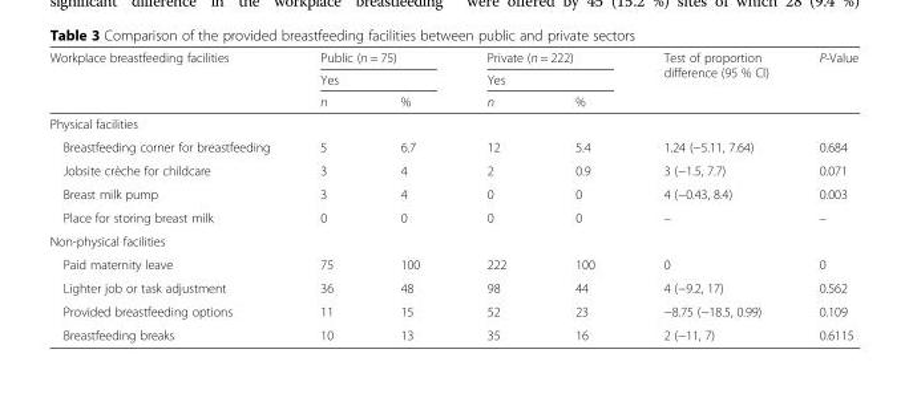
<table><thead><tr><td rowspan="3">Workplace breastfeeding facilities</td><td rowspan="2" colspan="2">Public (n = 75) Yes</td><td rowspan="2" colspan="2">Private (n = 222) Yes</td><td rowspan="3">Test of proportion difference (95 % Cl)</td><td rowspan="3">P-Value</td></tr><tr></tr><tr><td>n</td><td>%</td><td>n</td><td>%</td></tr></thead><tbody><tr><td colspan="7">Physical facilities</td></tr><tr><td>Breastfeeding corner for breastfeeding</td><td>5</td><td>6.7</td><td>12</td><td>5.4</td><td>1.24 (−5.11, 7.64)</td><td>0.684</td></tr><tr><td>Jobsite crèche for childcare</td><td>3</td><td>4</td><td>2</td><td>0.9</td><td>3 (−1.5, 7.7)</td><td>0.071</td></tr><tr><td>Breast milk pump</td><td>3</td><td>4</td><td>0</td><td>0</td><td>4 (−0.43, 8.4)</td><td>0.003</td></tr><tr><td>Place for storing breast milk</td><td>0</td><td>0</td><td>0</td><td>0</td><td>–</td><td>–</td></tr><tr><td colspan="7">Non-physical facilities</td></tr><tr><td>Paid maternity leave</td><td>75</td><td>100</td><td>222</td><td>100</td><td>0</td><td>0</td></tr><tr><td>Lighter job or task adjustment</td><td>36</td><td>48</td><td>98</td><td>44</td><td>4 (−9.2, 17)</td><td>0.562</td></tr><tr><td>Provided breastfeeding options</td><td>11</td><td>15</td><td>52</td><td>23</td><td>−8.75 (−18.5, 0.99)</td><td>0.109</td></tr><tr><td>Breastfeeding breaks</td><td>10</td><td>13</td><td>35</td><td>16</td><td>2 (−11, 7)</td><td>0.6115</td></tr></tbody></table>